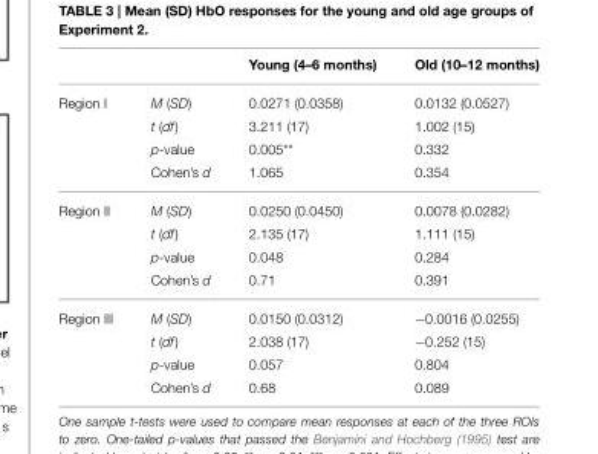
<table><thead><tr><td></td><td></td><td>Young (4–6 months)</td><td>Old (10–12 months)</td></tr></thead><tbody><tr><td rowspan="4">Region I</td><td>M (SD)</td><td>0.0271 (0.0358)</td><td>0.0132 (0.0527)</td></tr><tr><td>t (df)</td><td>3.211 (17)</td><td>1.002 (15)</td></tr><tr><td>p-value</td><td>0.005**</td><td>0.332</td></tr><tr><td>Cohen’s d</td><td>1.065</td><td>0.354</td></tr><tr><td rowspan="4">Region II</td><td>M (SD)</td><td>0.0250 (0.0450)</td><td>0.0078 (0.0282)</td></tr><tr><td>t (df)</td><td>2.135 (17)</td><td>1.111 (15)</td></tr><tr><td>p-value</td><td>0.048</td><td>0.284</td></tr><tr><td>Cohen’s d</td><td>0.71</td><td>0.391</td></tr><tr><td rowspan="4">Region III</td><td>M (SD)</td><td>0.0150 (0.0312)</td><td>−0.0016 (0.0255)</td></tr><tr><td>t (df)</td><td>2.038 (17)</td><td>−0.252 (15)</td></tr><tr><td>p-value</td><td>0.057</td><td>0.804</td></tr><tr><td>Cohen’s d</td><td>0.68</td><td>0.089</td></tr></tbody></table>